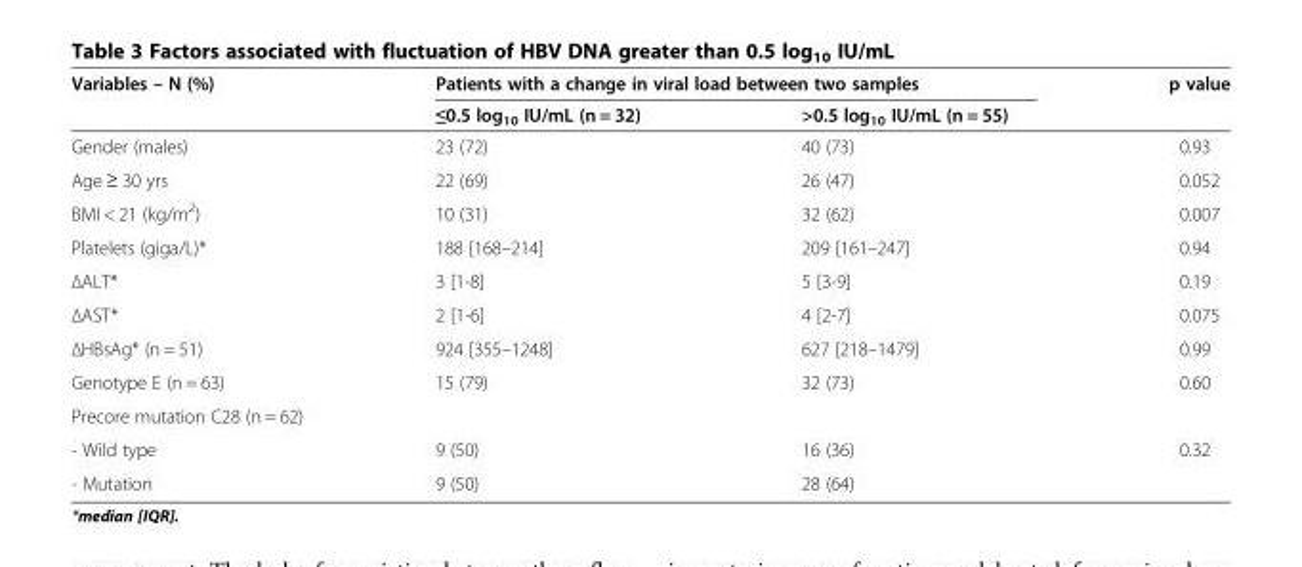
<table><thead><tr><td rowspan="2">Variables – N (%)</td><td colspan="2">Patients with a change in viral load between two samples</td><td rowspan="2">p value</td></tr><tr><td>≤0.5 log<sub>10</sub> IU/mL (n = 32)</td><td>&gt;0.5 log<sub>10</sub> IU/mL (n = 55)</td></tr></thead><tbody><tr><td>Gender (males)</td><td>23 (72)</td><td>40 (73)</td><td>0.93</td></tr><tr><td>Age ≥ 30 yrs</td><td>22 (69)</td><td>26 (47)</td><td>0.052</td></tr><tr><td>BMI &lt; 21 (kg/m<sup>2</sup>)</td><td>10 (31)</td><td>32 (62)</td><td>0.007</td></tr><tr><td>Platelets (giga/L)*</td><td>188 [168–214]</td><td>209 [161–247]</td><td>0.94</td></tr><tr><td>ΔALT*</td><td>3 [1-8]</td><td>5 [3-9]</td><td>0.19</td></tr><tr><td>ΔAST*</td><td>2 [1-6]</td><td>4 [2-7]</td><td>0.075</td></tr><tr><td>ΔHBsAg* (n = 51)</td><td>924 [355–1248]</td><td>627 [218–1479]</td><td>0.99</td></tr><tr><td>Genotype E (n = 63)</td><td>15 (79)</td><td>32 (73)</td><td>0.60</td></tr><tr><td colspan="4">Precore mutation C28 (n = 62)</td></tr><tr><td>- Wild type</td><td>9 (50)</td><td>16 (36)</td><td>0.32</td></tr><tr><td>- Mutation</td><td>9 (50)</td><td>28 (64)</td><td></td></tr></tbody></table>